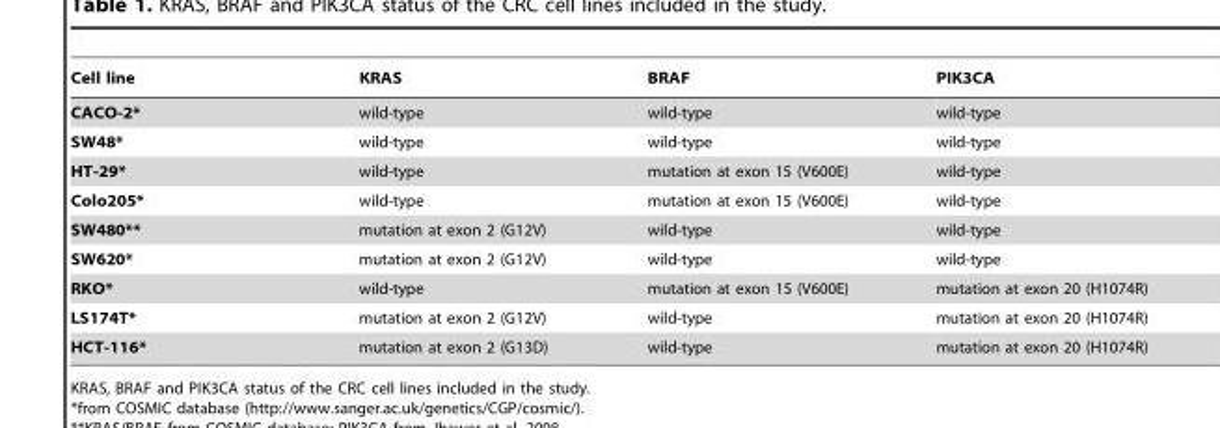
<table><thead><tr><td>Cell line</td><td>KRAS</td><td>BRAF</td><td>PIK3CA</td></tr></thead><tbody><tr><td>CACO-2*</td><td>wild-type</td><td>wild-type</td><td>wild-type</td></tr><tr><td>SW48*</td><td>wild-type</td><td>wild-type</td><td>wild-type</td></tr><tr><td>HT-29*</td><td>wild-type</td><td>mutation at exon 15 (V600E)</td><td>wild-type</td></tr><tr><td>Colo205*</td><td>wild-type</td><td>mutation at exon 15 (V600E)</td><td>wild-type</td></tr><tr><td>SW480**</td><td>mutation at exon 2 (G12V)</td><td>wild-type</td><td>wild-type</td></tr><tr><td>SW620*</td><td>mutation at exon 2 (G12V)</td><td>wild-type</td><td>wild-type</td></tr><tr><td>RKO*</td><td>wild-type</td><td>mutation at exon 15 (V600E)</td><td>mutation at exon 20 (H1074R)</td></tr><tr><td>LS174T*</td><td>mutation at exon 2 (G12V)</td><td>wild-type</td><td>mutation at exon 20 (H1074R)</td></tr><tr><td>HCT-116*</td><td>mutation at exon 2 (G13D)</td><td>wild-type</td><td>mutation at exon 20 (H1074R)</td></tr></tbody></table>